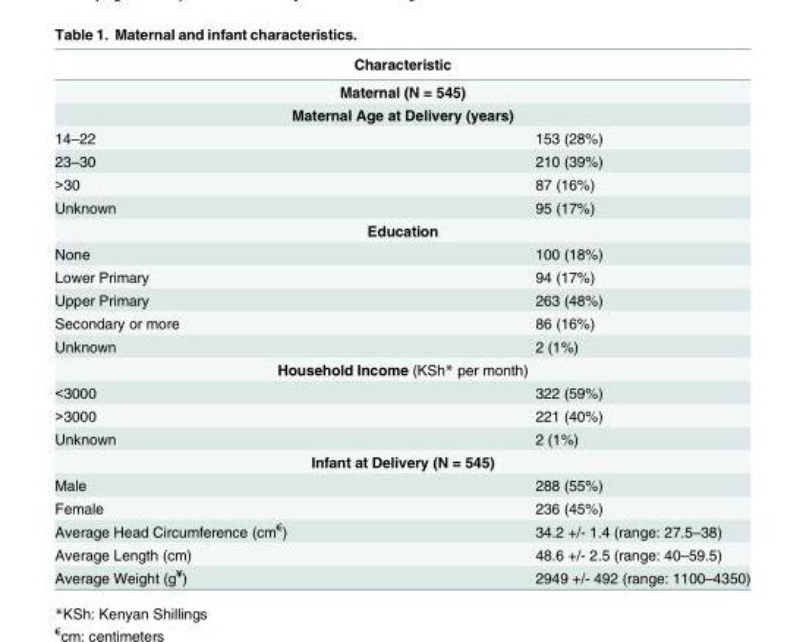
<table><thead><tr><td rowspan="3" colspan="2">Characteristic Maternal (N = 545) Maternal Age at Delivery (years)</td></tr><tr></tr><tr></tr><tr><td>14–22</td><td>153 (28%)</td></tr></thead><tbody><tr><td>23–30</td><td>210 (39%)</td></tr><tr><td>&gt;30</td><td>87 (16%)</td></tr><tr><td>Unknown</td><td>95 (17%)</td></tr><tr><td colspan="2">Education</td></tr><tr><td>None</td><td>100 (18%)</td></tr><tr><td>Lower Primary</td><td>94 (17%)</td></tr><tr><td>Upper Primary</td><td>263 (48%)</td></tr><tr><td>Secondary or more</td><td>86 (16%)</td></tr><tr><td>Unknown</td><td>2 (1%)</td></tr><tr><td colspan="2">Household Income (KSh* per month)</td></tr><tr><td>&lt;3000</td><td>322 (59%)</td></tr><tr><td>&gt;3000</td><td>221 (40%)</td></tr><tr><td>Unknown</td><td>2 (1%)</td></tr><tr><td colspan="2">Infant at Delivery (N = 545)</td></tr><tr><td>Male</td><td>288 (55%)</td></tr><tr><td>Female</td><td>236 (45%)</td></tr><tr><td>Average Head Circumference (cm<sup>€</sup>)</td><td>34.2 +/- 1.4 (range: 27.5–38)</td></tr><tr><td>Average Length (cm)</td><td>48.6 +/- 2.5 (range: 40–59.5)</td></tr><tr><td>Average Weight (g<sup>¥</sup>)</td><td>2949 +/- 492 (range: 1100–4350)</td></tr></tbody></table>